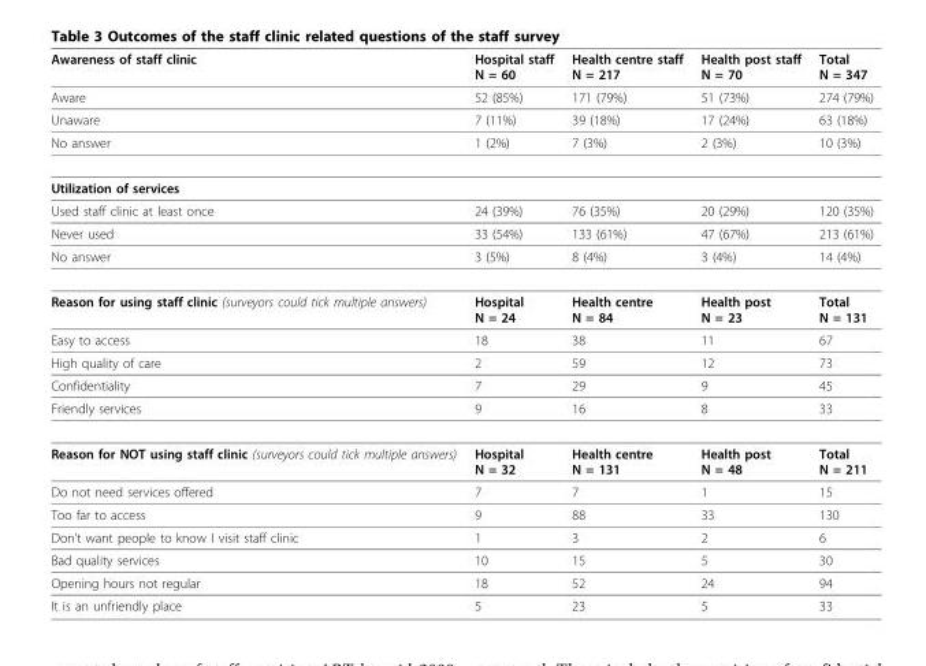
<table><thead><tr><td>Awareness of staff clinic</td><td>Hospital staff N = 60</td><td>Health centre staff N = 217</td><td>Health post staff N = 70</td><td>Total N = 347</td></tr></thead><tbody><tr><td>Aware</td><td>52 (85%)</td><td>171 (79%)</td><td>51 (73%)</td><td>274 (79%)</td></tr><tr><td>Unaware</td><td>7 (11%)</td><td>39 (18%)</td><td>17 (24%)</td><td>63 (18%)</td></tr><tr><td>No answer</td><td>1 (2%)</td><td>7 (3%)</td><td>2 (3%)</td><td>10 (3%)</td></tr><tr><td colspan="5">Utilization of services</td></tr><tr><td>Used staff clinic at least once</td><td>24 (39%)</td><td>76 (35%)</td><td>20 (29%)</td><td>120 (35%)</td></tr><tr><td>Never used</td><td>33 (54%)</td><td>133 (61%)</td><td>47 (67%)</td><td>213 (61%)</td></tr><tr><td>No answer</td><td>3 (5%)</td><td>8 (4%)</td><td>3 (4%)</td><td>14 (4%)</td></tr><tr><td>Reason for using staff clinic (surveyors could tick multiple answers)</td><td>Hospital N = 24</td><td>Health centre N = 84</td><td>Health post N = 23</td><td>Total N = 131</td></tr><tr><td>Easy to access</td><td>18</td><td>38</td><td>11</td><td>67</td></tr><tr><td>High quality of care</td><td>2</td><td>59</td><td>12</td><td>73</td></tr><tr><td>Confidentiality</td><td>7</td><td>29</td><td>9</td><td>45</td></tr><tr><td>Friendly services</td><td>9</td><td>16</td><td>8</td><td>33</td></tr><tr><td>Reason for NOT using staff clinic (surveyors could tick multiple answers)</td><td>Hospital N = 32</td><td>Health centre N = 131</td><td>Health post N = 48</td><td>Total N = 211</td></tr><tr><td>Do not need services offered</td><td>7</td><td>7</td><td>1</td><td>15</td></tr><tr><td>Too far to access</td><td>9</td><td>88</td><td>33</td><td>130</td></tr><tr><td>Don’t want people to know I visit staff clinic</td><td>1</td><td>3</td><td>2</td><td>6</td></tr><tr><td>Bad quality services</td><td>10</td><td>15</td><td>5</td><td>30</td></tr><tr><td>Opening hours not regular</td><td>18</td><td>52</td><td>24</td><td>94</td></tr><tr><td>It is an unfriendly place</td><td>5</td><td>23</td><td>5</td><td>33</td></tr></tbody></table>